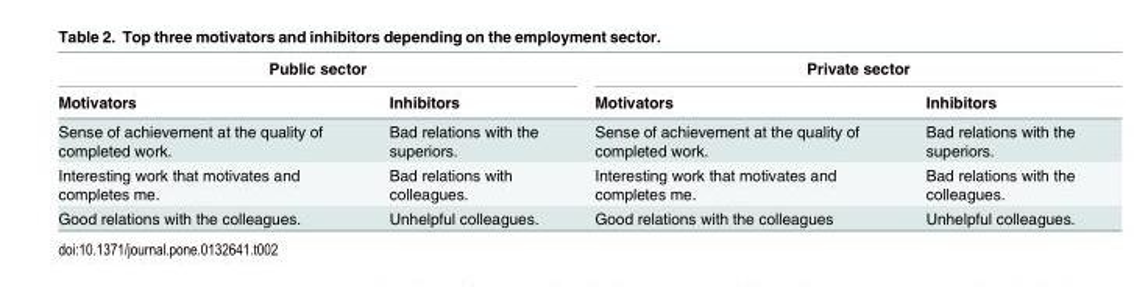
<table><thead><tr><td colspan="2">Public sector</td><td colspan="2">Private sector</td></tr><tr><td>Motivators</td><td>Inhibitors</td><td>Motivators</td><td>Inhibitors</td></tr></thead><tbody><tr><td>Sense of achievement at the quality of completed work.</td><td>Bad relations with the superiors.</td><td>Sense of achievement at the quality of completed work.</td><td>Bad relations with the superiors.</td></tr><tr><td>Interesting work that motivates and completes me.</td><td>Bad relations with colleagues.</td><td>Interesting work that motivates and completes me.</td><td>Bad relations with the colleagues.</td></tr><tr><td>Good relations with the colleagues.</td><td>Unhelpful colleagues.</td><td>Good relations with the colleagues</td><td>Unhelpful colleagues.</td></tr></tbody></table>